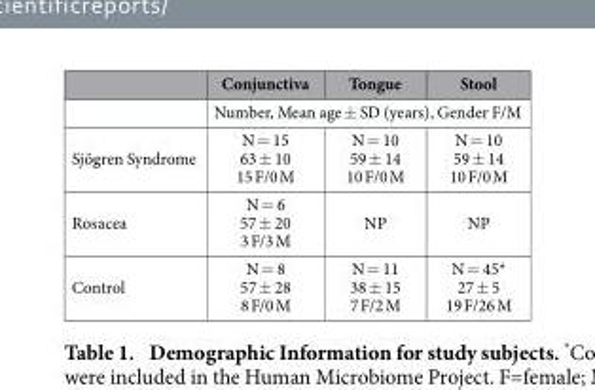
<table><thead><tr><td></td><td>Conjunctiva</td><td>Tongue</td><td>Stool</td></tr></thead><tbody><tr><td></td><td colspan="3">Number, Mean age ± SD (years), Gender F/M</td></tr><tr><td>Sjögren Syndrome</td><td>N = 15 63 ± 10 15 F/0 M</td><td>N = 10 59 ± 14 10 F/0 M</td><td>N = 10 59 ± 14 10 F/0 M</td></tr><tr><td>Rosacea</td><td>N = 6 57 ± 20 3 F/3 M</td><td>NP</td><td>NP</td></tr><tr><td>Control</td><td>N = 8 57 ± 28 8 F/0 M</td><td>N = 11 38 ± 15 7 F/2 M</td><td>N = 45* 27 ± 5 19 F/26 M</td></tr></tbody></table>